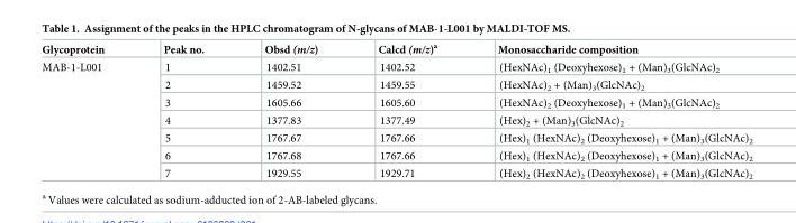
<table><thead><tr><td>Glycoprotein</td><td>Peak no.</td><td>Obsd (m/z)</td><td>Calcd (m/z)<sup>a</sup></td><td>Monosaccharide composition</td></tr></thead><tbody><tr><td rowspan="7">MAB-1-L001</td><td>1</td><td>1402.51</td><td>1402.52</td><td>(HexNAc)<sub>1</sub> (Deoxyhexose)<sub>1</sub> + (Man)<sub>3</sub>(GlcNAc)<sub>2</sub></td></tr><tr><td>2</td><td>1459.52</td><td>1459.55</td><td>(HexNAc)<sub>2</sub> + (Man)<sub>3</sub>(GlcNAc)<sub>2</sub></td></tr><tr><td>3</td><td>1605.66</td><td>1605.60</td><td>(HexNAc)<sub>2</sub> (Deoxyhexose)<sub>1</sub> + (Man)<sub>3</sub>(GlcNAc)<sub>2</sub></td></tr><tr><td>4</td><td>1377.83</td><td>1377.49</td><td>(Hex)<sub>2</sub> + (Man)<sub>3</sub>(GlcNAc)<sub>2</sub></td></tr><tr><td>5</td><td>1767.67</td><td>1767.66</td><td>(Hex)<sub>1</sub> (HexNAc)<sub>2</sub> (Deoxyhexose)<sub>1</sub> + (Man)<sub>3</sub>(GlcNAc)<sub>2</sub></td></tr><tr><td>6</td><td>1767.68</td><td>1767.66</td><td>(Hex)<sub>1</sub> (HexNAc)<sub>2</sub> (Deoxyhexose)<sub>1</sub> + (Man)<sub>3</sub>(GlcNAc)<sub>2</sub></td></tr><tr><td>7</td><td>1929.55</td><td>1929.71</td><td>(Hex)<sub>2</sub> (HexNAc)<sub>2</sub> (Deoxyhexose)<sub>1</sub> + (Man)<sub>3</sub>(GlcNAc)<sub>2</sub></td></tr></tbody></table>